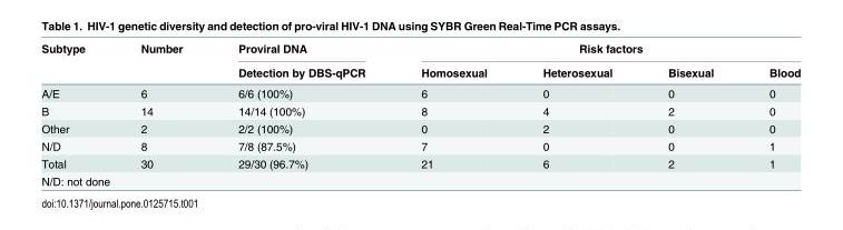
<table><thead><tr><td rowspan="2">Subtype</td><td rowspan="2">Number</td><td rowspan="2">Proviral DNA Detection by DBS-qPCR</td><td colspan="4">Risk factors</td></tr><tr><td>Homosexual</td><td>Heterosexual</td><td>Bisexual</td><td>Blood</td></tr></thead><tbody><tr><td>A/E</td><td>6</td><td>6/6 (100%)</td><td>6</td><td>0</td><td>0</td><td>0</td></tr><tr><td>B</td><td>14</td><td>14/14 (100%)</td><td>8</td><td>4</td><td>2</td><td>0</td></tr><tr><td>Other</td><td>2</td><td>2/2 (100%)</td><td>0</td><td>2</td><td>0</td><td>0</td></tr><tr><td>N/D</td><td>8</td><td>7/8 (87.5%)</td><td>7</td><td>0</td><td>0</td><td>1</td></tr><tr><td>Total</td><td>30</td><td>29/30 (96.7%)</td><td>21</td><td>6</td><td>2</td><td>1</td></tr><tr><td colspan="2">N/D: not done</td><td></td><td></td><td></td><td></td><td></td></tr></tbody></table>